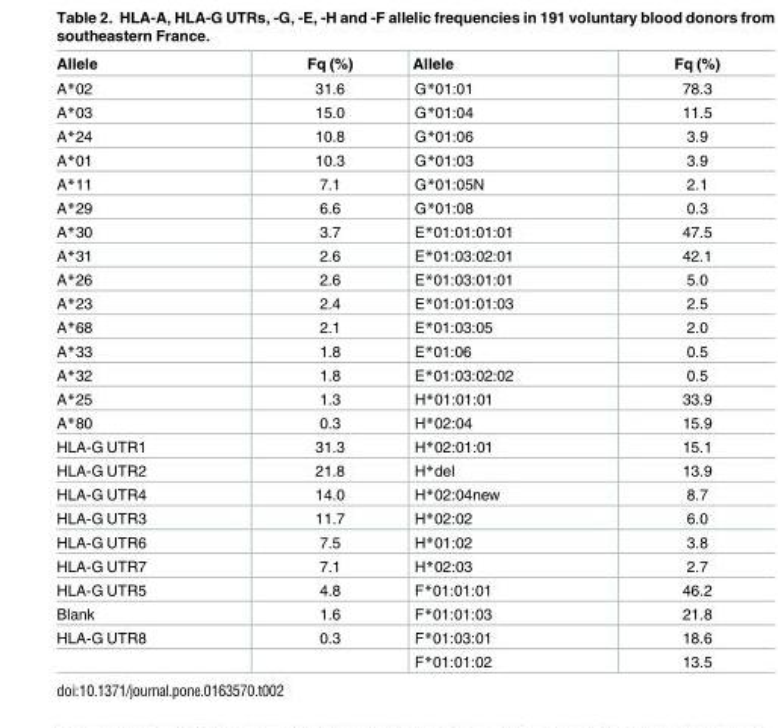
<table><thead><tr><td>Allele</td><td>Fq (%)</td><td>Allele</td><td>Fq (%)</td></tr></thead><tbody><tr><td>A*02</td><td>31.6</td><td>G*01:01</td><td>78.3</td></tr><tr><td>A*03</td><td>15.0</td><td>G*01:04</td><td>11.5</td></tr><tr><td>A*24</td><td>10.8</td><td>G*01:06</td><td>3.9</td></tr><tr><td>A*01</td><td>10.3</td><td>G*01:03</td><td>3.9</td></tr><tr><td>A*11</td><td>7.1</td><td>G*01:05N</td><td>2.1</td></tr><tr><td>A*29</td><td>6.6</td><td>G*01:08</td><td>0.3</td></tr><tr><td>A*30</td><td>3.7</td><td>E*01:01:01:01</td><td>47.5</td></tr><tr><td>A*31</td><td>2.6</td><td>E*01:03:02:01</td><td>42.1</td></tr><tr><td>A*26</td><td>2.6</td><td>E*01:03:01:01</td><td>5.0</td></tr><tr><td>A*23</td><td>2.4</td><td>E*01:01:01:03</td><td>2.5</td></tr><tr><td>A*68</td><td>2.1</td><td>E*01:03:05</td><td>2.0</td></tr><tr><td>A*33</td><td>1.8</td><td>E*01:06</td><td>0.5</td></tr><tr><td>A*32</td><td>1.8</td><td>E*01:03:02:02</td><td>0.5</td></tr><tr><td>A*25</td><td>1.3</td><td>H*01:01:01</td><td>33.9</td></tr><tr><td>A*80</td><td>0.3</td><td>H*02:04</td><td>15.9</td></tr><tr><td>HLA-G UTR1</td><td>31.3</td><td>H*02:01:01</td><td>15.1</td></tr><tr><td>HLA-G UTR2</td><td>21.8</td><td>H*del</td><td>13.9</td></tr><tr><td>HLA-G UTR4</td><td>14.0</td><td>H*02:04new</td><td>8.7</td></tr><tr><td>HLA-G UTR3</td><td>11.7</td><td>H*02:02</td><td>6.0</td></tr><tr><td>HLA-G UTR6</td><td>7.5</td><td>H*01:02</td><td>3.8</td></tr><tr><td>HLA-G UTR7</td><td>7.1</td><td>H*02:03</td><td>2.7</td></tr><tr><td>HLA-G UTR5</td><td>4.8</td><td>F*01:01:01</td><td>46.2</td></tr><tr><td>Blank</td><td>1.6</td><td>F*01:01:03</td><td>21.8</td></tr><tr><td rowspan="2">HLA-G UTR8</td><td>0.3</td><td>F*01:03:01</td><td>18.6</td></tr><tr><td></td><td>F*01:01:02</td><td>13.5</td></tr></tbody></table>